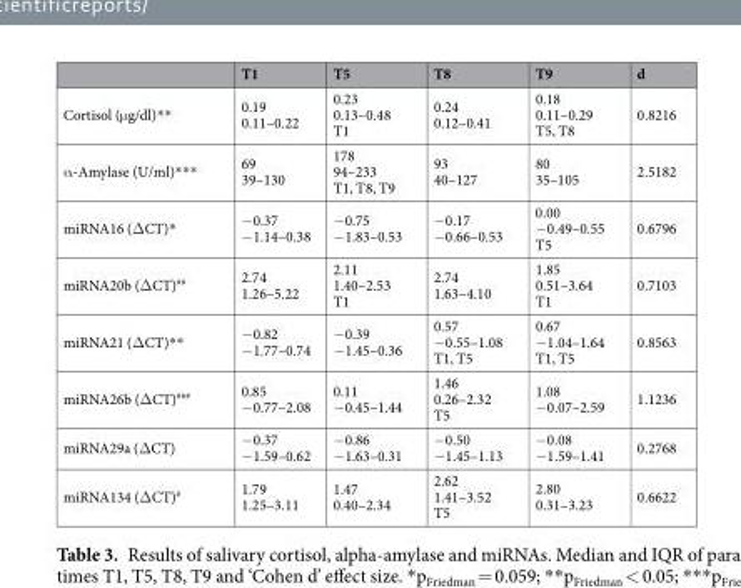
<table><thead><tr><td></td><td>T1</td><td>T5</td><td>T8</td><td>T9</td><td>d</td></tr></thead><tbody><tr><td>Cortisol (μg/dl)**</td><td>0.19 0.11–0.22</td><td>0.23 0.13–0.48 T1</td><td>0.24 0.12–0.41</td><td>0.18 0.11–0.29 T5, T8</td><td>0.8216</td></tr><tr><td>α-Amylase (U/ml)***</td><td>69 39–130</td><td>178 94–233 T1, T8, T9</td><td>93 40–127</td><td>80 35–105</td><td>2.5182</td></tr><tr><td>miRNA16 (ΔCT)*</td><td>−0.37 −1.14–0.38</td><td>−0.75 −1.83–0.53</td><td>−0.17 −0.66–0.53</td><td>0.00 −0.49–0.55 T5</td><td>0.6796</td></tr><tr><td>miRNA20b (ΔCT)<sup>##</sup></td><td>2.74 1.26–5.22</td><td>2.11 1.40–2.53 T1</td><td>2.74 1.63–4.10</td><td>1.85 0.51–3.64 T1</td><td>0.7103</td></tr><tr><td>miRNA21 (ΔCT)**</td><td>−0.82 −1.77–0.74</td><td>−0.39 −1.45–0.36</td><td>0.57 −0.55–1.08 T1, T5</td><td>0.67 −1.04–1.64 T1, T5</td><td>0.8563</td></tr><tr><td>miRNA26b (ΔCT)<sup>###</sup></td><td>0.85 −0.77–2.08</td><td>0.11 −0.45–1.44</td><td>1.46 0.26–2.32 T5</td><td>1.08 −0.07–2.59</td><td>1.1236</td></tr><tr><td>miRNA29a (ΔCT)</td><td>−0.37 −1.59–0.62</td><td>−0.86 −1.63–0.31</td><td>−0.50 −1.45–1.13</td><td>−0.08 −1.59–1.41</td><td>0.2768</td></tr><tr><td>miRNA134 (ΔCT)<sup>#</sup></td><td>1.79 1.25–3.11</td><td>1.47 0.40–2.34</td><td>2.62 1.41–3.52 T5</td><td>2.80 0.31–3.23</td><td>0.6622</td></tr></tbody></table>